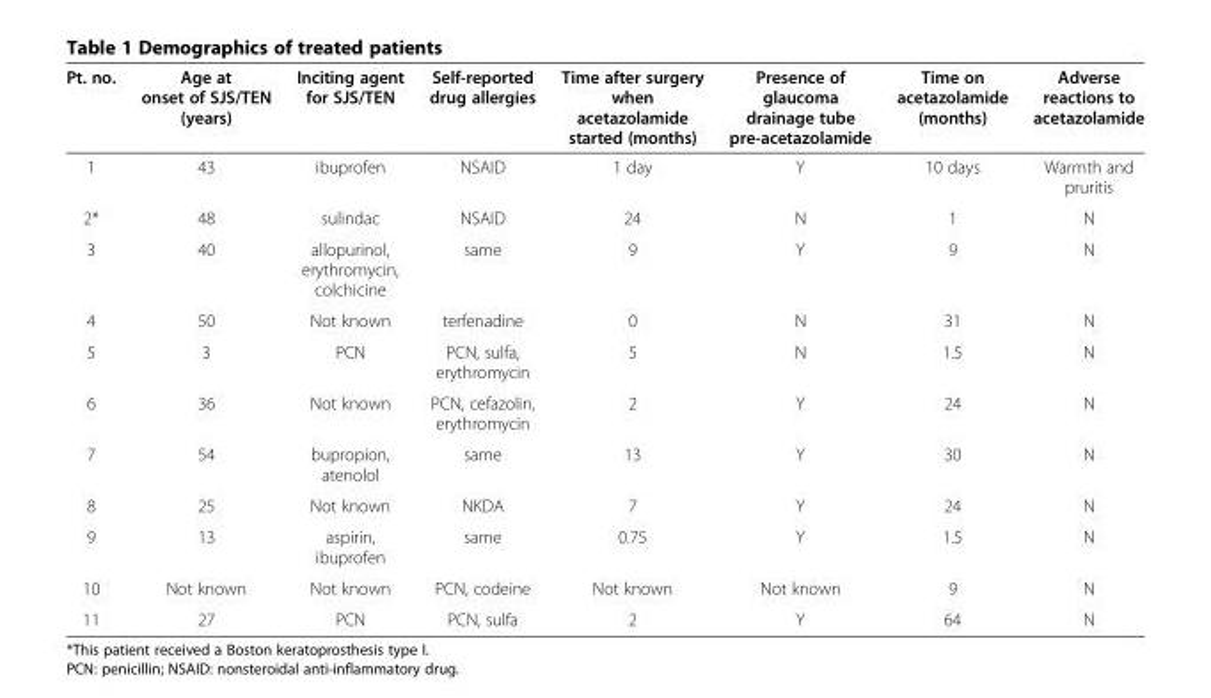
<table><thead><tr><td>Pt. no.</td><td>Age at onset of SJS/TEN (years)</td><td>Inciting agent for SJS/TEN</td><td>Self-reported drug allergies</td><td>Time after surgery when acetazolamide started (months)</td><td>Presence of glaucoma drainage tube pre-acetazolamide</td><td>Time on acetazolamide (months)</td><td>Adverse reactions to acetazolamide</td></tr></thead><tbody><tr><td>1</td><td>43</td><td>ibuprofen</td><td>NSAID</td><td>1 day</td><td>Y</td><td>10 days</td><td>Warmth and pruritis</td></tr><tr><td>2*</td><td>48</td><td>sulindac</td><td>NSAID</td><td>24</td><td>N</td><td>1</td><td>N</td></tr><tr><td>3</td><td>40</td><td>allopurinol, erythromycin, colchicine</td><td>same</td><td>9</td><td>Y</td><td>9</td><td>N</td></tr><tr><td>4</td><td>50</td><td>Not known</td><td>terfenadine</td><td>0</td><td>N</td><td>31</td><td>N</td></tr><tr><td>5</td><td>3</td><td>PCN</td><td>PCN, sulfa, erythromycin</td><td>5</td><td>N</td><td>1.5</td><td>N</td></tr><tr><td>6</td><td>36</td><td>Not known</td><td>PCN, cefazolin, erythromycin</td><td>2</td><td>Y</td><td>24</td><td>N</td></tr><tr><td>7</td><td>54</td><td>bupropion, atenolol</td><td>same</td><td>13</td><td>Y</td><td>30</td><td>N</td></tr><tr><td>8</td><td>25</td><td>Not known</td><td>NKDA</td><td>7</td><td>Y</td><td>24</td><td>N</td></tr><tr><td>9</td><td>13</td><td>aspirin, ibuprofen</td><td>same</td><td>0.75</td><td>Y</td><td>1.5</td><td>N</td></tr><tr><td>10</td><td>Not known</td><td>Not known</td><td>PCN, codeine</td><td>Not known</td><td>Not known</td><td>9</td><td>N</td></tr><tr><td>11</td><td>27</td><td>PCN</td><td>PCN, sulfa</td><td>2</td><td>Y</td><td>64</td><td>N</td></tr></tbody></table>